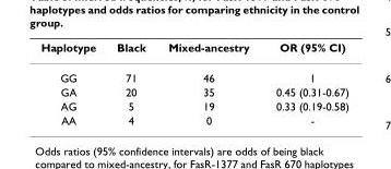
<table><thead><tr><td>Haplotype</td><td>Black</td><td>Mixed-ancestry</td><td>OR (95% CI)</td></tr></thead><tbody><tr><td>GG</td><td>71</td><td>46</td><td>1</td></tr><tr><td>GA</td><td>20</td><td>35</td><td>0.45 (0.31-0.67)</td></tr><tr><td>AG</td><td>5</td><td>19</td><td>0.33 (0.19-0.58)</td></tr><tr><td>AA</td><td>4</td><td>0</td><td>-</td></tr></tbody></table>